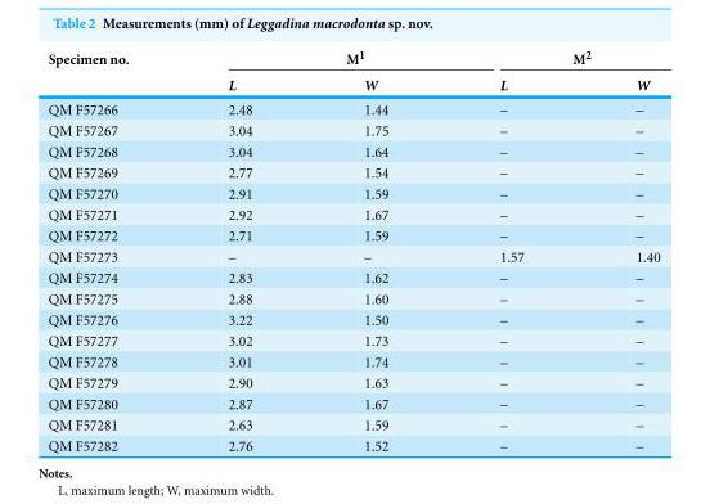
<table><thead><tr><td rowspan="2">Specimen no.</td><td colspan="2">M<sup>1</sup></td><td colspan="2">M<sup>2</sup></td></tr><tr><td>L</td><td>W</td><td>L</td><td>W</td></tr></thead><tbody><tr><td>QM F57266</td><td>2.48</td><td>1.44</td><td>–</td><td>–</td></tr><tr><td>QM F57267</td><td>3.04</td><td>1.75</td><td>–</td><td>–</td></tr><tr><td>QM F57268</td><td>3.04</td><td>1.64</td><td>–</td><td>–</td></tr><tr><td>QM F57269</td><td>2.77</td><td>1.54</td><td>–</td><td>–</td></tr><tr><td>QM F57270</td><td>2.91</td><td>1.59</td><td>–</td><td>–</td></tr><tr><td>QM F57271</td><td>2.92</td><td>1.67</td><td>–</td><td>–</td></tr><tr><td>QM F57272</td><td>2.71</td><td>1.59</td><td>–</td><td>–</td></tr><tr><td>QM F57273</td><td>–</td><td>–</td><td>1.57</td><td>1.40</td></tr><tr><td>QM F57274</td><td>2.83</td><td>1.62</td><td>–</td><td>–</td></tr><tr><td>QM F57275</td><td>2.88</td><td>1.60</td><td>–</td><td>–</td></tr><tr><td>QM F57276</td><td>3.22</td><td>1.50</td><td>–</td><td>–</td></tr><tr><td>QM F57277</td><td>3.02</td><td>1.73</td><td>–</td><td>–</td></tr><tr><td>QM F57278</td><td>3.01</td><td>1.74</td><td>–</td><td>–</td></tr><tr><td>QM F57279</td><td>2.90</td><td>1.63</td><td>–</td><td>–</td></tr><tr><td>QM F57280</td><td>2.87</td><td>1.67</td><td>–</td><td>–</td></tr><tr><td>QM F57281</td><td>2.63</td><td>1.59</td><td>–</td><td>–</td></tr><tr><td>QM F57282</td><td>2.76</td><td>1.52</td><td>–</td><td>–</td></tr></tbody></table>